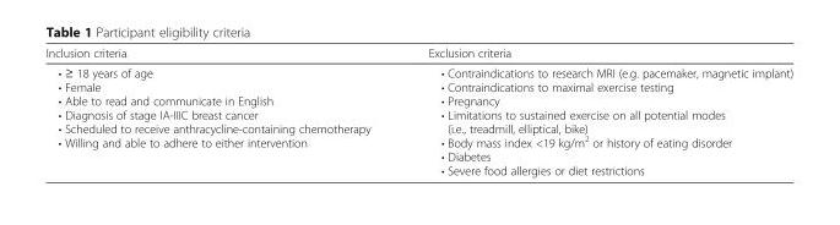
<table><thead><tr><td>Inclusion criteria</td><td>Exclusion criteria</td></tr></thead><tbody><tr><td>• ≥ 18 years of age • Female • Able to read and communicate in English • Diagnosis of stage IA-IIIC breast cancer • Scheduled to receive anthracycline-containing chemotherapy • Willing and able to adhere to either intervention</td><td>• Contraindications to research MRI (e.g. pacemaker, magnetic implant) • Contraindications to maximal exercise testing • Pregnancy • Limitations to sustained exercise on all potential modes (i.e., treadmill, elliptical, bike) • Body mass index &lt;19 kg/m<sup>2</sup> or history of eating disorder • Diabetes • Severe food allergies or diet restrictions</td></tr></tbody></table>